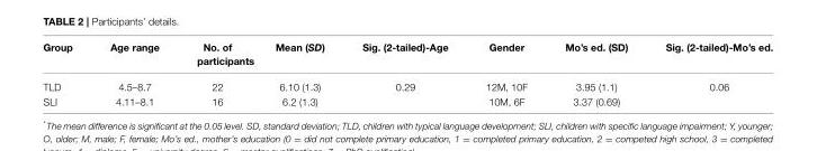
<table><thead><tr><td>Group</td><td>Age range</td><td>No. of participants</td><td>Mean (SD)</td><td>Sig. (2-tailed)-Age</td><td>Gender</td><td>Mo’s ed. (SD)</td><td>Sig. (2-tailed)-Mo’s ed.</td></tr></thead><tbody><tr><td>TLD</td><td>4.5–8.7</td><td>22</td><td>6.10 (1.3)</td><td>0.29</td><td>12M, 10F</td><td>3.95 (1.1)</td><td>0.06</td></tr><tr><td>SLI</td><td>4.11–8.1</td><td>16</td><td>6.2 (1.3)</td><td></td><td>10M, 6F</td><td>3.37 (0.69)</td><td></td></tr></tbody></table>